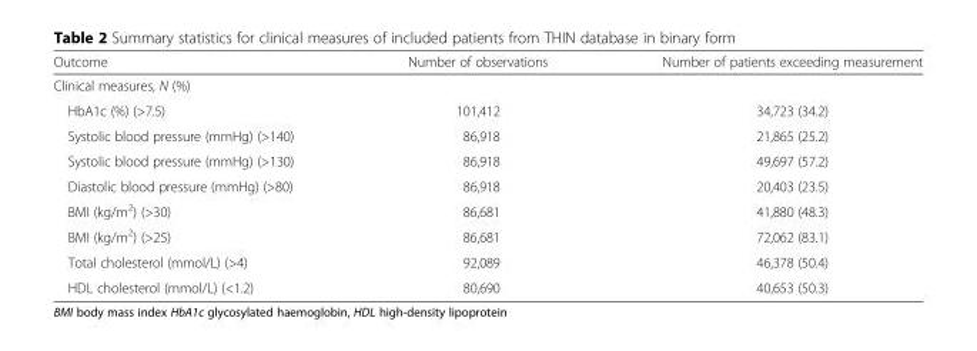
<table><thead><tr><td>Outcome</td><td>Number of observations</td><td>Number of patients exceeding measurement</td></tr></thead><tbody><tr><td colspan="3">Clinical measures, N (%)</td></tr><tr><td>HbA1c (%) (&gt;7.5)</td><td>101,412</td><td>34,723 (34.2)</td></tr><tr><td>Systolic blood pressure (mmHg) (&gt;140)</td><td>86,918</td><td>21,865 (25.2)</td></tr><tr><td>Systolic blood pressure (mmHg) (&gt;130)</td><td>86,918</td><td>49,697 (57.2)</td></tr><tr><td>Diastolic blood pressure (mmHg) (&gt;80)</td><td>86,918</td><td>20,403 (23.5)</td></tr><tr><td>BMI (kg/m<sup>2</sup>) (&gt;30)</td><td>86,681</td><td>41,880 (48.3)</td></tr><tr><td>BMI (kg/m<sup>2</sup>) (&gt;25)</td><td>86,681</td><td>72,062 (83.1)</td></tr><tr><td>Total cholesterol (mmol/L) (&gt;4)</td><td>92,089</td><td>46,378 (50.4)</td></tr><tr><td>HDL cholesterol (mmol/L) (&lt;1.2)</td><td>80,690</td><td>40,653 (50.3)</td></tr></tbody></table>